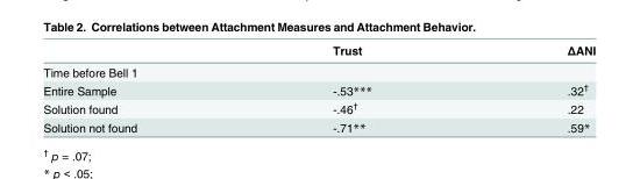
<table><thead><tr><td></td><td>Trust</td><td>ΔANI</td></tr></thead><tbody><tr><td colspan="3">Time before Bell 1</td></tr><tr><td>Entire Sample</td><td>-.53***</td><td>.32<sup>†</sup></td></tr><tr><td>Solution found</td><td>-.46<sup>†</sup></td><td>.22</td></tr><tr><td>Solution not found</td><td>-.71**</td><td>.59*</td></tr></tbody></table>